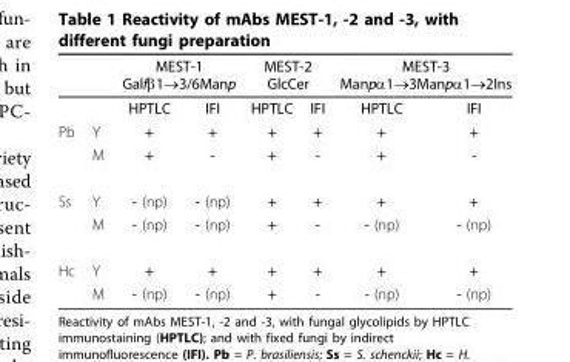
<table><thead><tr><td rowspan="2"></td><td rowspan="2"></td><td colspan="2">MEST-1 Galfβ1→3/6Manp</td><td colspan="2">MEST-2 GlcCer</td><td colspan="2">MEST-3 Manpα1→3Manpα1→2Ins</td></tr><tr><td>HPTLC</td><td>IFI</td><td>HPTLC</td><td>IFI</td><td>HPTLC</td><td>IFI</td></tr></thead><tbody><tr><td rowspan="2">Pb</td><td>Y</td><td>+</td><td>+</td><td>+</td><td>+</td><td>+</td><td>+</td></tr><tr><td>M</td><td>+</td><td>-</td><td>+</td><td>-</td><td>+</td><td>-</td></tr><tr><td rowspan="2">Ss</td><td>Y</td><td>- (np)</td><td>- (np)</td><td>+</td><td>+</td><td>+</td><td>+</td></tr><tr><td>M</td><td>- (np)</td><td>- (np)</td><td>+</td><td>-</td><td>- (np)</td><td>- (np)</td></tr><tr><td rowspan="2">Hc</td><td>Y</td><td>+</td><td>+</td><td>+</td><td>+</td><td>+</td><td>+</td></tr><tr><td>M</td><td>- (np)</td><td>- (np)</td><td>+</td><td>-</td><td>- (np)</td><td>- (np)</td></tr></tbody></table>